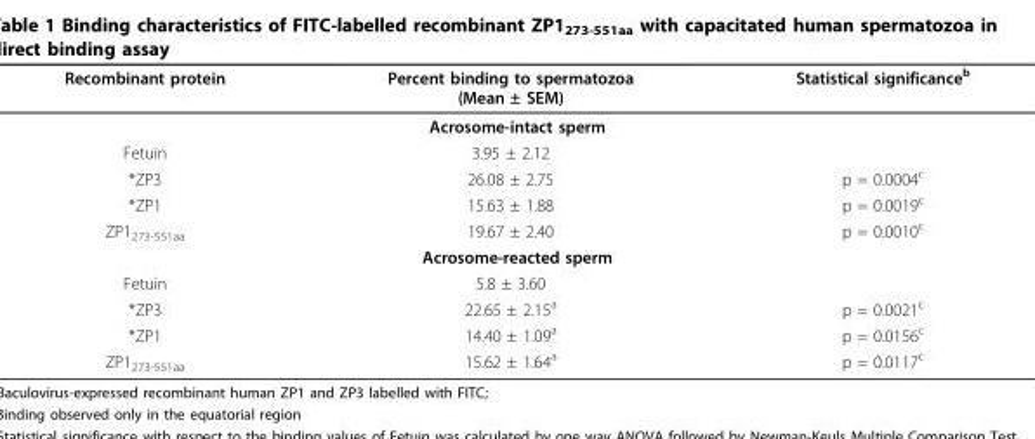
<table><thead><tr><td>Recombinant protein</td><td>Percent binding to spermatozoa (Mean ± SEM)</td><td>Statistical significance<sup>b</sup></td></tr></thead><tbody><tr><td colspan="3">Acrosome-intact sperm</td></tr><tr><td>Fetuin</td><td>3.95 ± 2.12</td><td></td></tr><tr><td>*ZP3</td><td>26.08 ± 2.75</td><td>p = 0.0004<sup>c</sup></td></tr><tr><td>*ZP1</td><td>15.63 ± 1.88</td><td>p = 0.0019<sup>c</sup></td></tr><tr><td>ZP1<sub>273-551aa</sub></td><td>19.67 ± 2.40</td><td>p = 0.0010<sup>c</sup></td></tr><tr><td colspan="3">Acrosome-reacted sperm</td></tr><tr><td>Fetuin</td><td>5.8 ± 3.60</td><td></td></tr><tr><td>*ZP3</td><td>22.65 ± 2.15<sup>a</sup></td><td>p = 0.0021<sup>c</sup></td></tr><tr><td>*ZP1</td><td>14.40 ± 1.09<sup>a</sup></td><td>p = 0.0156<sup>c</sup></td></tr><tr><td>ZP1<sub>273-551aa</sub></td><td>15.62 ± 1.64<sup>a</sup></td><td>p = 0.0117<sup>c</sup></td></tr></tbody></table>